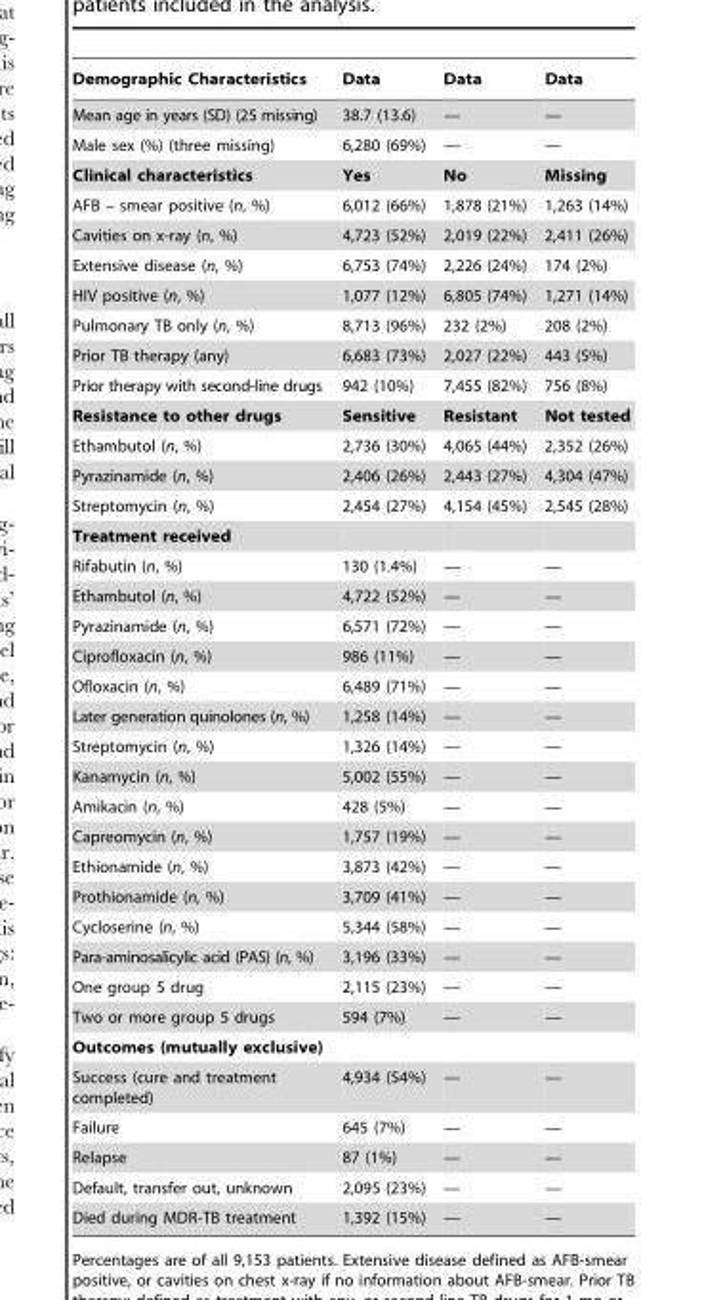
<table><thead><tr><td>Demographic Characteristics</td><td>Data</td><td>Data</td><td>Data</td></tr></thead><tbody><tr><td>Mean age in years (SD) (25 missing)</td><td>38.7 (13.6)</td><td>—</td><td>—</td></tr><tr><td>Male sex (%) (three missing)</td><td>6,280 (69%)</td><td>—</td><td>—</td></tr><tr><td>Clinical characteristics</td><td>Yes</td><td>No</td><td>Missing</td></tr><tr><td>AFB – smear positive (n, %)</td><td>6,012 (66%)</td><td>1,878 (21%)</td><td>1,263 (14%)</td></tr><tr><td>Cavities on x-ray (n, %)</td><td>4,723 (52%)</td><td>2,019 (22%)</td><td>2,411 (26%)</td></tr><tr><td>Extensive disease (n, %)</td><td>6,753 (74%)</td><td>2,226 (24%)</td><td>174 (2%)</td></tr><tr><td>HIV positive (n, %)</td><td>1,077 (12%)</td><td>6,805 (74%)</td><td>1,271 (14%)</td></tr><tr><td>Pulmonary TB only (n, %)</td><td>8,713 (96%)</td><td>232 (2%)</td><td>208 (2%)</td></tr><tr><td>Prior TB therapy (any)</td><td>6,683 (73%)</td><td>2,027 (22%)</td><td>443 (5%)</td></tr><tr><td>Prior therapy with second-line drugs</td><td>942 (10%)</td><td>7,455 (82%)</td><td>756 (8%)</td></tr><tr><td>Resistance to other drugs</td><td>Sensitive</td><td>Resistant</td><td>Not tested</td></tr><tr><td>Ethambutol (n, %)</td><td>2,736 (30%)</td><td>4,065 (44%)</td><td>2,352 (26%)</td></tr><tr><td>Pyrazinamide (n, %)</td><td>2,406 (26%)</td><td>2,443 (27%)</td><td>4,304 (47%)</td></tr><tr><td>Streptomycin (n, %)</td><td>2,454 (27%)</td><td>4,154 (45%)</td><td>2,545 (28%)</td></tr><tr><td colspan="4">Treatment received</td></tr><tr><td>Rifabutin (n, %)</td><td>130 (1.4%)</td><td>—</td><td>—</td></tr><tr><td>Ethambutol (n, %)</td><td>4,722 (52%)</td><td>—</td><td>—</td></tr><tr><td>Pyrazinamide (n, %)</td><td>6,571 (72%)</td><td>—</td><td>—</td></tr><tr><td>Ciprofloxacin (n, %)</td><td>986 (11%)</td><td>—</td><td>—</td></tr><tr><td>Ofloxacin (n, %)</td><td>6,489 (71%)</td><td>—</td><td>—</td></tr><tr><td>Later generation quinolones (n, %)</td><td>1,258 (14%)</td><td>—</td><td>—</td></tr><tr><td>Streptomycin (n, %)</td><td>1,326 (14%)</td><td>—</td><td>—</td></tr><tr><td>Kanamycin (n, %)</td><td>5,002 (55%)</td><td>—</td><td>—</td></tr><tr><td>Amikacin (n, %)</td><td>428 (5%)</td><td>—</td><td>—</td></tr><tr><td>Capreomycin (n, %)</td><td>1,757 (19%)</td><td>—</td><td>—</td></tr><tr><td>Ethionamide (n, %)</td><td>3,873 (42%)</td><td>—</td><td>—</td></tr><tr><td>Prothionamide (n, %)</td><td>3,709 (41%)</td><td>—</td><td>—</td></tr><tr><td>Cycloserine (n, %)</td><td>5,344 (58%)</td><td>—</td><td>—</td></tr><tr><td>Para-aminosalicylic acid (PAS) (n, %)</td><td>3,196 (33%)</td><td>—</td><td>—</td></tr><tr><td>One group 5 drug</td><td>2,115 (23%)</td><td>—</td><td>—</td></tr><tr><td>Two or more group 5 drugs</td><td>594 (7%)</td><td>—</td><td>—</td></tr><tr><td colspan="4">Outcomes (mutually exclusive)</td></tr><tr><td>Success (cure and treatment completed)</td><td>4,934 (54%)</td><td>—</td><td>—</td></tr><tr><td>Failure</td><td>645 (7%)</td><td>—</td><td>—</td></tr><tr><td>Relapse</td><td>87 (1%)</td><td>—</td><td>—</td></tr><tr><td>Default, transfer out, unknown</td><td>2,095 (23%)</td><td>—</td><td>—</td></tr><tr><td>Died during MDR-TB treatment</td><td>1,392 (15%)</td><td>—</td><td>—</td></tr></tbody></table>